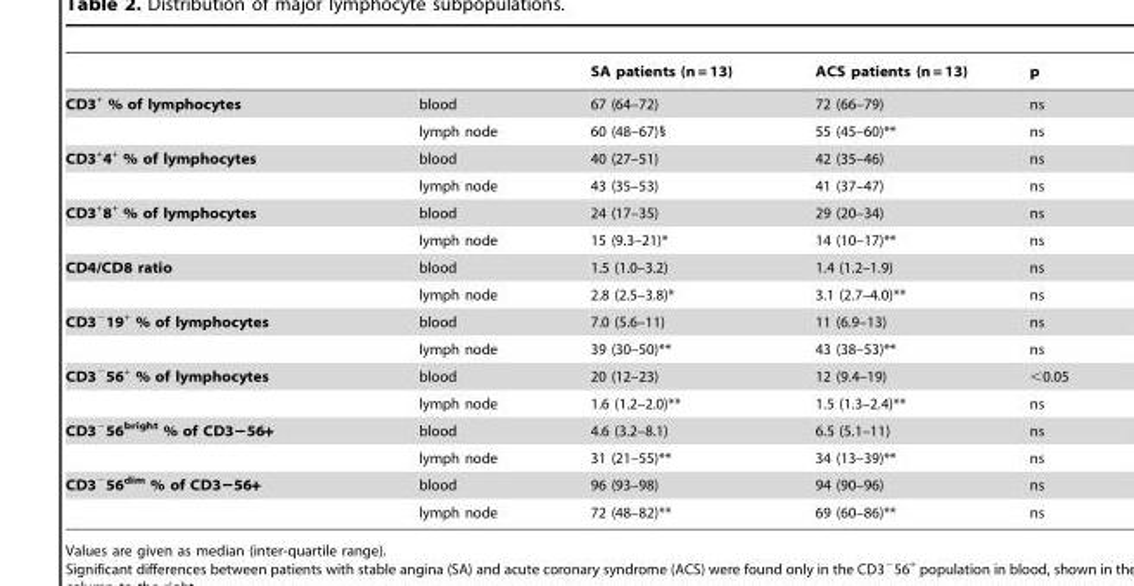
<table><thead><tr><td></td><td></td><td>SA patients (n = 13)</td><td>ACS patients (n = 13)</td><td>p</td></tr></thead><tbody><tr><td rowspan="2">CD3<sup>+</sup> % of lymphocytes</td><td>blood</td><td>67 (64–72)</td><td>72 (66–79)</td><td>ns</td></tr><tr><td>lymph node</td><td>60 (48–67)§</td><td>55 (45–60)**</td><td>ns</td></tr><tr><td rowspan="2">CD3<sup>+</sup>4<sup>+</sup> % of lymphocytes</td><td>blood</td><td>40 (27–51)</td><td>42 (35–46)</td><td>ns</td></tr><tr><td>lymph node</td><td>43 (35–53)</td><td>41 (37–47)</td><td>ns</td></tr><tr><td rowspan="2">CD3<sup>+</sup>8<sup>+</sup> % of lymphocytes</td><td>blood</td><td>24 (17–35)</td><td>29 (20–34)</td><td>ns</td></tr><tr><td>lymph node</td><td>15 (9.3–21)*</td><td>14 (10–17)**</td><td>ns</td></tr><tr><td rowspan="2">CD4/CD8 ratio</td><td>blood</td><td>1.5 (1.0–3.2)</td><td>1.4 (1.2–1.9)</td><td>ns</td></tr><tr><td>lymph node</td><td>2.8 (2.5–3.8)*</td><td>3.1 (2.7–4.0)**</td><td>ns</td></tr><tr><td rowspan="2">CD3<sup>−</sup>19<sup>+</sup> % of lymphocytes</td><td>blood</td><td>7.0 (5.6–11)</td><td>11 (6.9–13)</td><td>ns</td></tr><tr><td>lymph node</td><td>39 (30–50)**</td><td>43 (38–53)**</td><td>ns</td></tr><tr><td rowspan="2">CD3<sup>−</sup>56<sup>+</sup> % of lymphocytes</td><td>blood</td><td>20 (12–23)</td><td>12 (9.4–19)</td><td>&lt;0.05</td></tr><tr><td>lymph node</td><td>1.6 (1.2–2.0)**</td><td>1.5 (1.3–2.4)**</td><td>ns</td></tr><tr><td rowspan="2">CD3<sup>−</sup>56<sup>bright</sup> % of CD3−56+</td><td>blood</td><td>4.6 (3.2–8.1)</td><td>6.5 (5.1–11)</td><td>ns</td></tr><tr><td>lymph node</td><td>31 (21–55)**</td><td>34 (13–39)**</td><td>ns</td></tr><tr><td rowspan="2">CD3<sup>−</sup>56<sup>dim</sup> % of CD3−56+</td><td>blood</td><td>96 (93–98)</td><td>94 (90–96)</td><td>ns</td></tr><tr><td>lymph node</td><td>72 (48–82)**</td><td>69 (60–86)**</td><td>ns</td></tr></tbody></table>